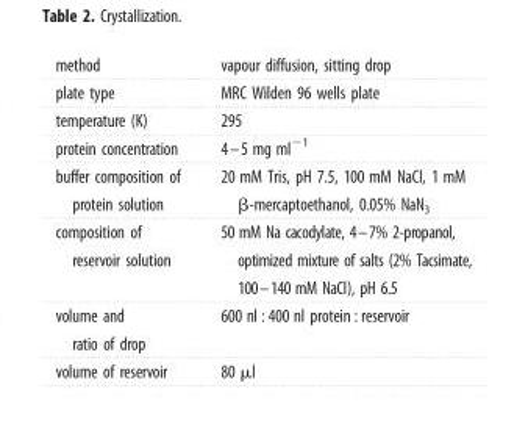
<table><tbody><tr><td>method</td><td>vapour diffusion, sitting drop</td></tr><tr><td>plate type</td><td>MRC Wilden 96 wells plate</td></tr><tr><td>temperature (K)</td><td>295</td></tr><tr><td>protein concentration</td><td>4–5 mg ml<sup>−1</sup></td></tr><tr><td>buffer composition of protein solution</td><td>20 mM Tris, pH 7.5, 100 mM NaCl, 1 mM β-mercaptoethanol, 0.05% NaN<sub>3</sub></td></tr><tr><td>composition of reservoir solution</td><td>50 mM Na cacodylate, 4–7% 2-propanol, optimized mixture of salts (2% Tacsimate, 100–140 mM NaCl), pH 6.5</td></tr><tr><td>volume and ratio of drop</td><td>600 nl : 400 nl protein : reservoir</td></tr><tr><td>volume of reservoir</td><td>80 µl</td></tr></tbody></table>